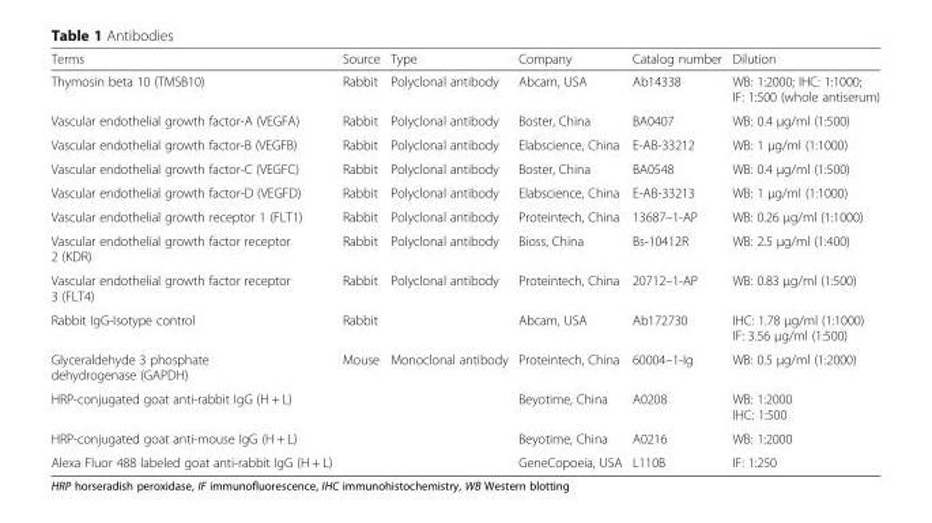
<table><thead><tr><td>Terms</td><td>Source</td><td>Type</td><td>Company</td><td>Catalog number</td><td>Dilution</td></tr></thead><tbody><tr><td>Thymosin beta 10 (TMSB10)</td><td>Rabbit</td><td>Polyclonal antibody</td><td>Abcam, USA</td><td>Ab14338</td><td>WB: 1:2000; IHC: 1:1000; IF: 1:500 (whole antiserum)</td></tr><tr><td>Vascular endothelial growth factor-A (VEGFA)</td><td>Rabbit</td><td>Polyclonal antibody</td><td>Boster, China</td><td>BA0407</td><td>WB: 0.4 μg/ml (1:500)</td></tr><tr><td>Vascular endothelial growth factor-B (VEGFB)</td><td>Rabbit</td><td>Polyclonal antibody</td><td>Elabscience, China</td><td>E-AB-33212</td><td>WB: 1 μg/ml (1:1000)</td></tr><tr><td>Vascular endothelial growth factor-C (VEGFC)</td><td>Rabbit</td><td>Polyclonal antibody</td><td>Boster, China</td><td>BA0548</td><td>WB: 0.4 μg/ml (1:500)</td></tr><tr><td>Vascular endothelial growth factor-D (VEGFD)</td><td>Rabbit</td><td>Polyclonal antibody</td><td>Elabscience, China</td><td>E-AB-33213</td><td>WB: 1 μg/ml (1:1000)</td></tr><tr><td>Vascular endothelial growth receptor 1 (FLT1)</td><td>Rabbit</td><td>Polyclonal antibody</td><td>Proteintech, China</td><td>13687–1-AP</td><td>WB: 0.26 μg/ml (1:1000)</td></tr><tr><td>Vascular endothelial growth factor receptor 2 (KDR)</td><td>Rabbit</td><td>Polyclonal antibody</td><td>Bioss, China</td><td>Bs-10412R</td><td>WB: 2.5 μg/ml (1:400)</td></tr><tr><td>Vascular endothelial growth factor receptor 3 (FLT4)</td><td>Rabbit</td><td>Polyclonal antibody</td><td>Proteintech, China</td><td>20712–1-AP</td><td>WB: 0.83 μg/ml (1:500)</td></tr><tr><td>Rabbit IgG-Isotype control</td><td>Rabbit</td><td></td><td>Abcam, USA</td><td>Ab172730</td><td>IHC: 1.78 μg/ml (1:1000) IF: 3.56 μg/ml (1:500)</td></tr><tr><td>Glyceraldehyde 3 phosphate dehydrogenase (GAPDH)</td><td>Mouse</td><td>Monoclonal antibody</td><td>Proteintech, China</td><td>60004–1-Ig</td><td>WB: 0.5 μg/ml (1:2000)</td></tr><tr><td>HRP-conjugated goat anti-rabbit IgG (H + L)</td><td></td><td></td><td>Beyotime, China</td><td>A0208</td><td>WB: 1:2000 IHC: 1:500</td></tr><tr><td>HRP-conjugated goat anti-mouse IgG (H + L)</td><td></td><td></td><td>Beyotime, China</td><td>A0216</td><td>WB: 1:2000</td></tr><tr><td>Alexa Fluor 488 labeled goat anti-rabbit IgG (H + L)</td><td></td><td></td><td>GeneCopoeia, USA</td><td>L110B</td><td>IF: 1:250</td></tr></tbody></table>